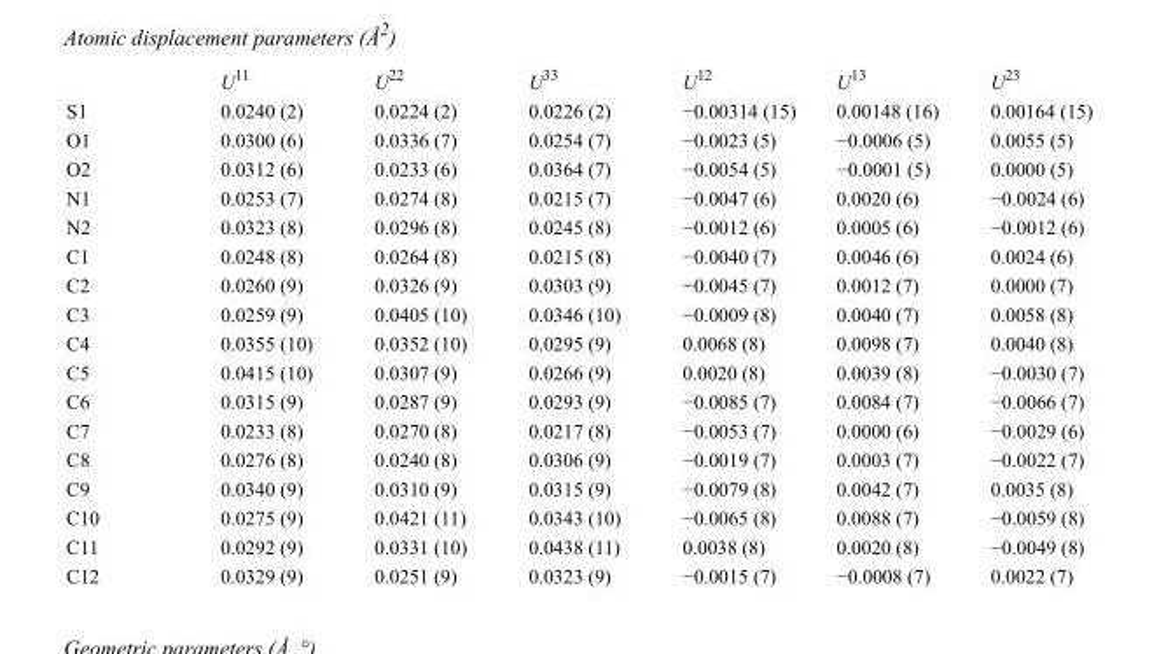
<table><thead><tr><td></td><td>U<sup>11</sup></td><td>U<sup>22</sup></td><td>U<sup>33</sup></td><td>U<sup>12</sup></td><td>U<sup>13</sup></td><td>U<sup>23</sup></td></tr></thead><tbody><tr><td>S1</td><td>0.0240 (2)</td><td>0.0224 (2)</td><td>0.0226 (2)</td><td>−0.00314 (15)</td><td>0.00148 (16)</td><td>0.00164 (15)</td></tr><tr><td>O1</td><td>0.0300 (6)</td><td>0.0336 (7)</td><td>0.0254 (7)</td><td>−0.0023 (5)</td><td>−0.0006 (5)</td><td>0.0055 (5)</td></tr><tr><td>O2</td><td>0.0312 (6)</td><td>0.0233 (6)</td><td>0.0364 (7)</td><td>−0.0054 (5)</td><td>−0.0001 (5)</td><td>0.0000 (5)</td></tr><tr><td>N1</td><td>0.0253 (7)</td><td>0.0274 (8)</td><td>0.0215 (7)</td><td>−0.0047 (6)</td><td>0.0020 (6)</td><td>−0.0024 (6)</td></tr><tr><td>N2</td><td>0.0323 (8)</td><td>0.0296 (8)</td><td>0.0245 (8)</td><td>−0.0012 (6)</td><td>0.0005 (6)</td><td>−0.0012 (6)</td></tr><tr><td>C1</td><td>0.0248 (8)</td><td>0.0264 (8)</td><td>0.0215 (8)</td><td>−0.0040 (7)</td><td>0.0046 (6)</td><td>0.0024 (6)</td></tr><tr><td>C2</td><td>0.0260 (9)</td><td>0.0326 (9)</td><td>0.0303 (9)</td><td>−0.0045 (7)</td><td>0.0012 (7)</td><td>0.0000 (7)</td></tr><tr><td>C3</td><td>0.0259 (9)</td><td>0.0405 (10)</td><td>0.0346 (10)</td><td>−0.0009 (8)</td><td>0.0040 (7)</td><td>0.0058 (8)</td></tr><tr><td>C4</td><td>0.0355 (10)</td><td>0.0352 (10)</td><td>0.0295 (9)</td><td>0.0068 (8)</td><td>0.0098 (7)</td><td>0.0040 (8)</td></tr><tr><td>C5</td><td>0.0415 (10)</td><td>0.0307 (9)</td><td>0.0266 (9)</td><td>0.0020 (8)</td><td>0.0039 (8)</td><td>−0.0030 (7)</td></tr><tr><td>C6</td><td>0.0315 (9)</td><td>0.0287 (9)</td><td>0.0293 (9)</td><td>−0.0085 (7)</td><td>0.0084 (7)</td><td>−0.0066 (7)</td></tr><tr><td>C7</td><td>0.0233 (8)</td><td>0.0270 (8)</td><td>0.0217 (8)</td><td>−0.0053 (7)</td><td>0.0000 (6)</td><td>−0.0029 (6)</td></tr><tr><td>C8</td><td>0.0276 (8)</td><td>0.0240 (8)</td><td>0.0306 (9)</td><td>−0.0019 (7)</td><td>0.0003 (7)</td><td>−0.0022 (7)</td></tr><tr><td>C9</td><td>0.0340 (9)</td><td>0.0310 (9)</td><td>0.0315 (9)</td><td>−0.0079 (8)</td><td>0.0042 (7)</td><td>0.0035 (8)</td></tr><tr><td>C10</td><td>0.0275 (9)</td><td>0.0421 (11)</td><td>0.0343 (10)</td><td>−0.0065 (8)</td><td>0.0088 (7)</td><td>−0.0059 (8)</td></tr><tr><td>C11</td><td>0.0292 (9)</td><td>0.0331 (10)</td><td>0.0438 (11)</td><td>0.0038 (8)</td><td>0.0020 (8)</td><td>−0.0049 (8)</td></tr><tr><td>C12</td><td>0.0329 (9)</td><td>0.0251 (9)</td><td>0.0323 (9)</td><td>−0.0015 (7)</td><td>−0.0008 (7)</td><td>0.0022 (7)</td></tr></tbody></table>